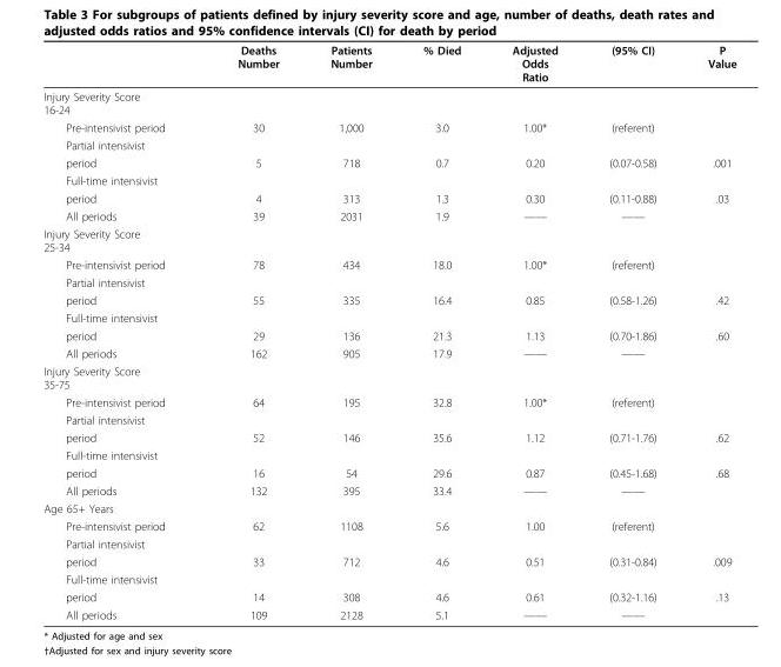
<table><thead><tr><td></td><td>Deaths Number</td><td>Patients Number</td><td>% Died</td><td>Adjusted Odds Ratio</td><td>(95% CI)</td><td>P Value</td></tr></thead><tbody><tr><td colspan="7">Injury Severity Score 16-24</td></tr><tr><td>Pre-intensivist period</td><td>30</td><td>1,000</td><td>3.0</td><td>1.00*</td><td>(referent)</td><td></td></tr><tr><td colspan="7">Partial intensivist</td></tr><tr><td>period</td><td>5</td><td>718</td><td>0.7</td><td>0.20</td><td>(0.07-0.58)</td><td>.001</td></tr><tr><td colspan="7">Full-time intensivist</td></tr><tr><td>period</td><td>4</td><td>313</td><td>1.3</td><td>0.30</td><td>(0.11-0.88)</td><td>.03</td></tr><tr><td>All periods</td><td>39</td><td>2031</td><td>1.9</td><td>——</td><td>——</td><td></td></tr><tr><td colspan="7">Injury Severity Score 25-34</td></tr><tr><td>Pre-intensivist period</td><td>78</td><td>434</td><td>18.0</td><td>1.00*</td><td>(referent)</td><td></td></tr><tr><td colspan="7">Partial intensivist</td></tr><tr><td>period</td><td>55</td><td>335</td><td>16.4</td><td>0.85</td><td>(0.58-1.26)</td><td>.42</td></tr><tr><td colspan="7">Full-time intensivist</td></tr><tr><td>period</td><td>29</td><td>136</td><td>21.3</td><td>1.13</td><td>(0.70-1.86)</td><td>.60</td></tr><tr><td>All periods</td><td>162</td><td>905</td><td>17.9</td><td>——</td><td>——</td><td></td></tr><tr><td colspan="7">Injury Severity Score 35-75</td></tr><tr><td>Pre-intensivist period</td><td>64</td><td>195</td><td>32.8</td><td>1.00*</td><td>(referent)</td><td></td></tr><tr><td colspan="7">Partial intensivist</td></tr><tr><td>period</td><td>52</td><td>146</td><td>35.6</td><td>1.12</td><td>(0.71-1.76)</td><td>.62</td></tr><tr><td colspan="7">Full-time intensivist</td></tr><tr><td>period</td><td>16</td><td>54</td><td>29.6</td><td>0.87</td><td>(0.45-1.68)</td><td>.68</td></tr><tr><td>All periods</td><td>132</td><td>395</td><td>33.4</td><td>——</td><td>——</td><td></td></tr><tr><td colspan="7">Age 65+ Years</td></tr><tr><td>Pre-intensivist period</td><td>62</td><td>1108</td><td>5.6</td><td>1.00</td><td>(referent)</td><td></td></tr><tr><td colspan="7">Partial intensivist</td></tr><tr><td>period</td><td>33</td><td>712</td><td>4.6</td><td>0.51</td><td>(0.31-0.84)</td><td>.009</td></tr><tr><td colspan="7">Full-time intensivist</td></tr><tr><td>period</td><td>14</td><td>308</td><td>4.6</td><td>0.61</td><td>(0.32-1.16)</td><td>.13</td></tr><tr><td>All periods</td><td>109</td><td>2128</td><td>5.1</td><td>——</td><td>——</td><td></td></tr></tbody></table>